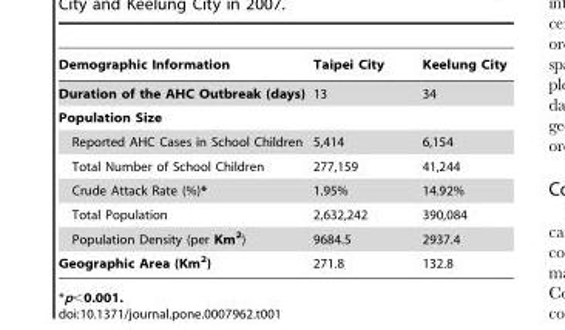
<table><thead><tr><td>Demographic Information</td><td>Taipei City</td><td>Keelung City</td></tr></thead><tbody><tr><td>Duration of the AHC Outbreak (days)</td><td>13</td><td>34</td></tr><tr><td colspan="3">Population Size</td></tr><tr><td>Reported AHC Cases in School Children</td><td>5,414</td><td>6,154</td></tr><tr><td>Total Number of School Children</td><td>277,159</td><td>41,244</td></tr><tr><td>Crude Attack Rate (%)*</td><td>1.95%</td><td>14.92%</td></tr><tr><td>Total Population</td><td>2,632,242</td><td>390,084</td></tr><tr><td>Population Density (per Km<sup>2</sup>)</td><td>9684.5</td><td>2937.4</td></tr><tr><td>Geographic Area (Km<sup>2</sup>)</td><td>271.8</td><td>132.8</td></tr></tbody></table>